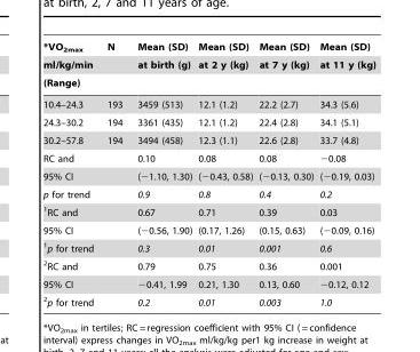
<table><thead><tr><td rowspan="3">*VO<sub>2max</sub> ml/kg/min (Range)</td><td rowspan="3">N</td><td rowspan="3">Mean (SD) at birth (g)</td><td rowspan="3">Mean (SD) at 2 y (kg)</td><td rowspan="3">Mean (SD) at 7 y (kg)</td><td rowspan="3">Mean (SD) at 11 y (kg)</td></tr><tr></tr><tr></tr></thead><tbody><tr><td>10.4–24.3</td><td>193</td><td>3459 (513)</td><td>12.1 (1.2)</td><td>22.2 (2.7)</td><td>34.3 (5.6)</td></tr><tr><td>24.3–30.2</td><td>194</td><td>3361 (435)</td><td>12.1 (1.2)</td><td>22.4 (2.8)</td><td>34.1 (5.1)</td></tr><tr><td>30.2–57.8</td><td>194</td><td>3494 (458)</td><td>12.3 (1.1)</td><td>22.6 (2.8)</td><td>33.7 (4.8)</td></tr><tr><td>RC and</td><td></td><td>0.10</td><td>0.08</td><td>0.08</td><td>−0.08</td></tr><tr><td>95% CI</td><td></td><td>(−1.10, 1.30)</td><td>(−0.43, 0.58)</td><td>(−0.13, 0.30)</td><td>(−0.19, 0.03)</td></tr><tr><td>p for trend</td><td></td><td>0.9</td><td>0.8</td><td>0.4</td><td>0.2</td></tr><tr><td>1RC and</td><td></td><td>0.67</td><td>0.71</td><td>0.39</td><td>0.03</td></tr><tr><td>95% CI</td><td></td><td>(−0.56, 1.90)</td><td>(0.17, 1.26)</td><td>(0.15, 0.63)</td><td>(−0.09, 0.16)</td></tr><tr><td>1p for trend</td><td></td><td>0.3</td><td>0.01</td><td>0.001</td><td>0.6</td></tr><tr><td>2RC and</td><td></td><td>0.79</td><td>0.75</td><td>0.36</td><td>0.001</td></tr><tr><td>95% CI</td><td></td><td>−0.41, 1.99</td><td>0.21, 1.30</td><td>0.13, 0.60</td><td>−0.12, 0.12</td></tr><tr><td>2p for trend</td><td></td><td>0.2</td><td>0.01</td><td>0.003</td><td>1.0</td></tr></tbody></table>